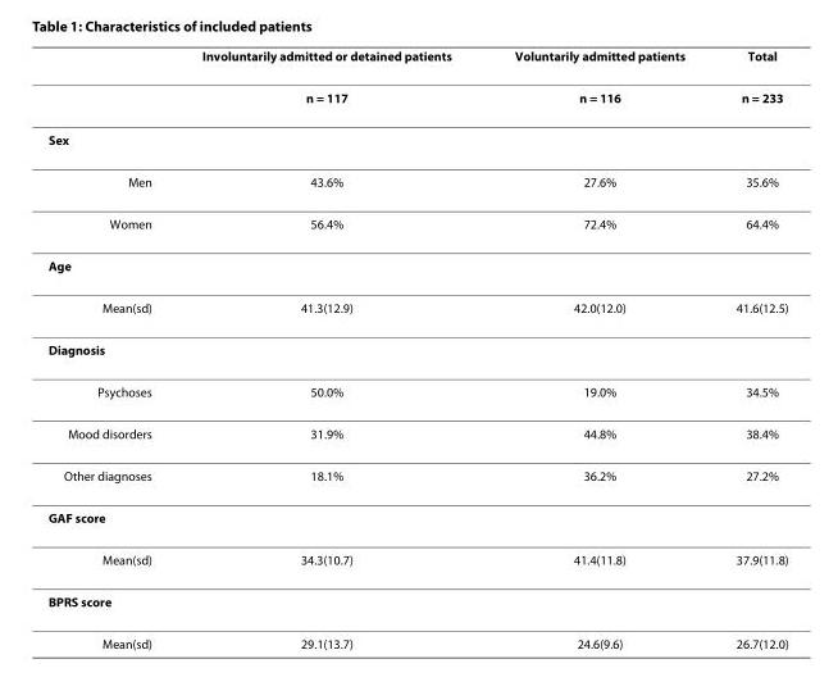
<table><thead><tr><td></td><td>Involuntarily admitted or detained patients</td><td>Voluntarily admitted patients</td><td>Total</td></tr></thead><tbody><tr><td></td><td>n = 117</td><td>n = 116</td><td>n = 233</td></tr><tr><td colspan="4">Sex</td></tr><tr><td>Men</td><td>43.6%</td><td>27.6%</td><td>35.6%</td></tr><tr><td>Women</td><td>56.4%</td><td>72.4%</td><td>64.4%</td></tr><tr><td colspan="4">Age</td></tr><tr><td>Mean(sd)</td><td>41.3(12.9)</td><td>42.0(12.0)</td><td>41.6(12.5)</td></tr><tr><td colspan="4">Diagnosis</td></tr><tr><td>Psychoses</td><td>50.0%</td><td>19.0%</td><td>34.5%</td></tr><tr><td>Mood disorders</td><td>31.9%</td><td>44.8%</td><td>38.4%</td></tr><tr><td>Other diagnoses</td><td>18.1%</td><td>36.2%</td><td>27.2%</td></tr><tr><td colspan="4">GAF score</td></tr><tr><td>Mean(sd)</td><td>34.3(10.7)</td><td>41.4(11.8)</td><td>37.9(11.8)</td></tr><tr><td colspan="4">BPRS score</td></tr><tr><td>Mean(sd)</td><td>29.1(13.7)</td><td>24.6(9.6)</td><td>26.7(12.0)</td></tr></tbody></table>